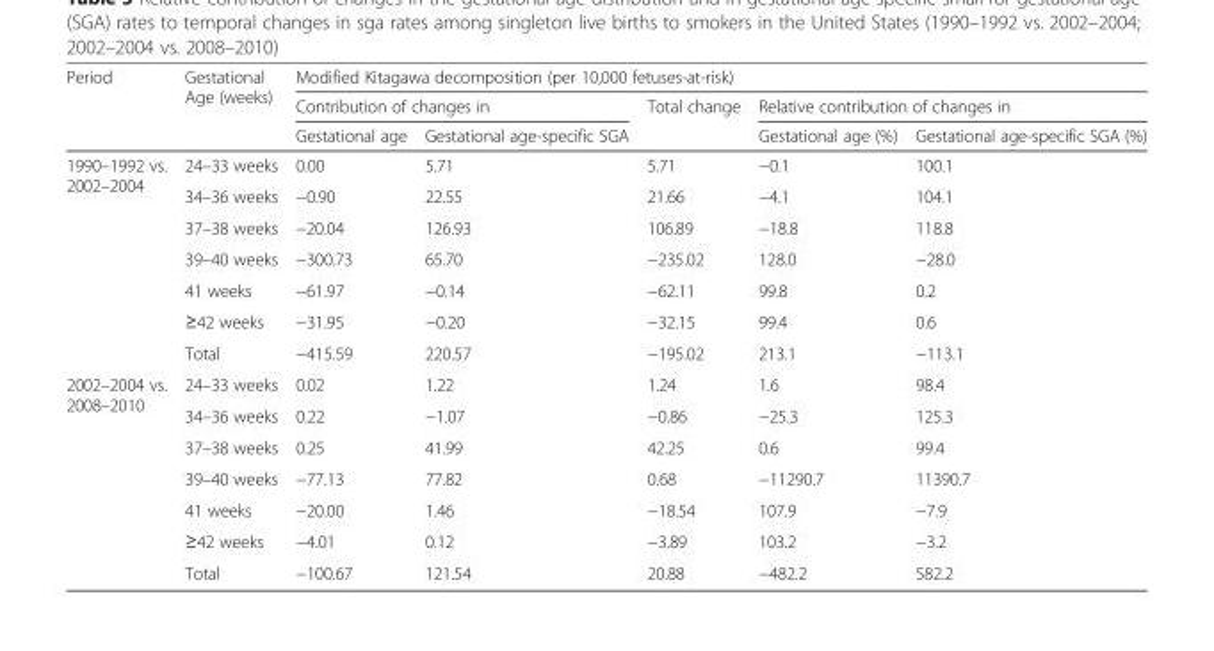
<table><thead><tr><td rowspan="3">Period</td><td rowspan="3">Gestational Age (weeks)</td><td colspan="5">Modified Kitagawa decomposition (per 10,000 fetuses-at-risk)</td></tr><tr><td colspan="2">Contribution of changes in</td><td rowspan="2">Total change</td><td colspan="2">Relative contribution of changes in</td></tr><tr><td>Gestational age</td><td>Gestational age-specific SGA</td><td>Gestational age (%)</td><td>Gestational age-specific SGA (%)</td></tr></thead><tbody><tr><td rowspan="7">1990–1992 vs. 2002–2004</td><td>24–33 weeks</td><td>0.00</td><td>5.71</td><td>5.71</td><td>−0.1</td><td>100.1</td></tr><tr><td>34–36 weeks</td><td>−0.90</td><td>22.55</td><td>21.66</td><td>−4.1</td><td>104.1</td></tr><tr><td>37–38 weeks</td><td>−20.04</td><td>126.93</td><td>106.89</td><td>−18.8</td><td>118.8</td></tr><tr><td>39–40 weeks</td><td>−300.73</td><td>65.70</td><td>−235.02</td><td>128.0</td><td>−28.0</td></tr><tr><td>41 weeks</td><td>−61.97</td><td>−0.14</td><td>−62.11</td><td>99.8</td><td>0.2</td></tr><tr><td>≥42 weeks</td><td>−31.95</td><td>−0.20</td><td>−32.15</td><td>99.4</td><td>0.6</td></tr><tr><td>Total</td><td>−415.59</td><td>220.57</td><td>−195.02</td><td>213.1</td><td>−113.1</td></tr><tr><td rowspan="7">2002–2004 vs. 2008–2010</td><td>24–33 weeks</td><td>0.02</td><td>1.22</td><td>1.24</td><td>1.6</td><td>98.4</td></tr><tr><td>34–36 weeks</td><td>0.22</td><td>−1.07</td><td>−0.86</td><td>−25.3</td><td>125.3</td></tr><tr><td>37–38 weeks</td><td>0.25</td><td>41.99</td><td>42.25</td><td>0.6</td><td>99.4</td></tr><tr><td>39–40 weeks</td><td>−77.13</td><td>77.82</td><td>0.68</td><td>−11290.7</td><td>11390.7</td></tr><tr><td>41 weeks</td><td>−20.00</td><td>1.46</td><td>−18.54</td><td>107.9</td><td>−7.9</td></tr><tr><td>≥42 weeks</td><td>−4.01</td><td>0.12</td><td>−3.89</td><td>103.2</td><td>−3.2</td></tr><tr><td>Total</td><td>−100.67</td><td>121.54</td><td>20.88</td><td>−482.2</td><td>582.2</td></tr></tbody></table>